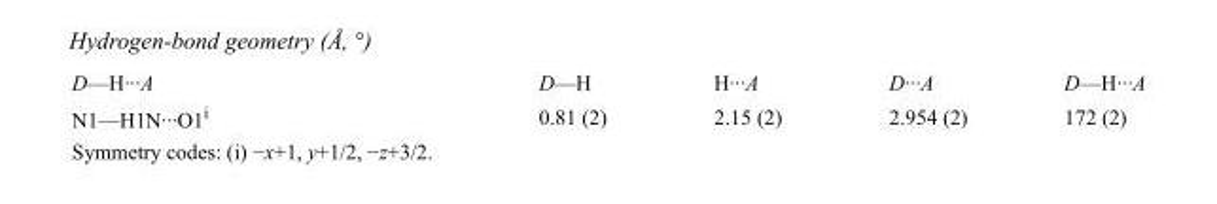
<table><tbody><tr><td>D—H···A</td><td>D—H</td><td>H···A</td><td>D···A</td><td>D—H···A</td></tr><tr><td>N1—H1N···O1<sup>i</sup></td><td>0.81 (2)</td><td>2.15 (2)</td><td>2.954 (2)</td><td>172 (2)</td></tr></tbody></table>